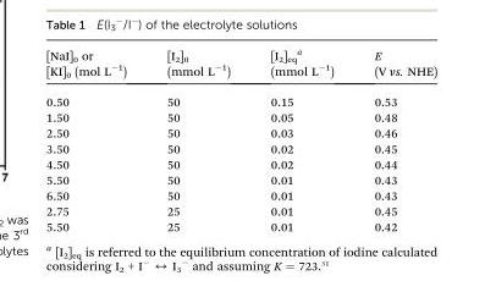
<table><thead><tr><td>[NaI]<sub>0</sub> or [KI]<sub>0</sub> (mol L<sup>–1</sup>)</td><td>[I<sub>2</sub>]<sub>0</sub> (mmol L<sup>–1</sup>)</td><td>[I<sub>2</sub>]<sub>eq</sub> <sup>a</sup> (mmol L<sup>–1</sup>)</td><td>E (V vs. NHE)</td></tr></thead><tbody><tr><td>0.50</td><td>50</td><td>0.15</td><td>0.53</td></tr><tr><td>1.50</td><td>50</td><td>0.05</td><td>0.48</td></tr><tr><td>2.50</td><td>50</td><td>0.03</td><td>0.46</td></tr><tr><td>3.50</td><td>50</td><td>0.02</td><td>0.45</td></tr><tr><td>4.50</td><td>50</td><td>0.02</td><td>0.44</td></tr><tr><td>5.50</td><td>50</td><td>0.01</td><td>0.43</td></tr><tr><td>6.50</td><td>50</td><td>0.01</td><td>0.43</td></tr><tr><td>2.75</td><td>25</td><td>0.01</td><td>0.45</td></tr><tr><td>5.50</td><td>25</td><td>0.01</td><td>0.42</td></tr></tbody></table>